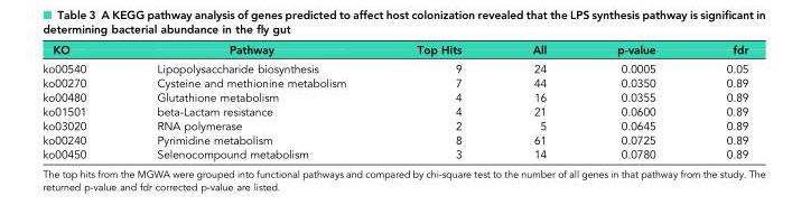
<table><thead><tr><td>KO</td><td>Pathway</td><td>Top Hits</td><td>All</td><td>p-value</td><td>fdr</td></tr></thead><tbody><tr><td>ko00540</td><td>Lipopolysaccharide biosynthesis</td><td>9</td><td>24</td><td>0.0005</td><td>0.05</td></tr><tr><td>ko00270</td><td>Cysteine and methionine metabolism</td><td>7</td><td>44</td><td>0.0350</td><td>0.89</td></tr><tr><td>ko00480</td><td>Glutathione metabolism</td><td>4</td><td>16</td><td>0.0355</td><td>0.89</td></tr><tr><td>ko01501</td><td>beta-Lactam resistance</td><td>4</td><td>21</td><td>0.0600</td><td>0.89</td></tr><tr><td>ko03020</td><td>RNA polymerase</td><td>2</td><td>5</td><td>0.0645</td><td>0.89</td></tr><tr><td>ko00240</td><td>Pyrimidine metabolism</td><td>8</td><td>61</td><td>0.0725</td><td>0.89</td></tr><tr><td>ko00450</td><td>Selenocompound metabolism</td><td>3</td><td>14</td><td>0.0780</td><td>0.89</td></tr></tbody></table>